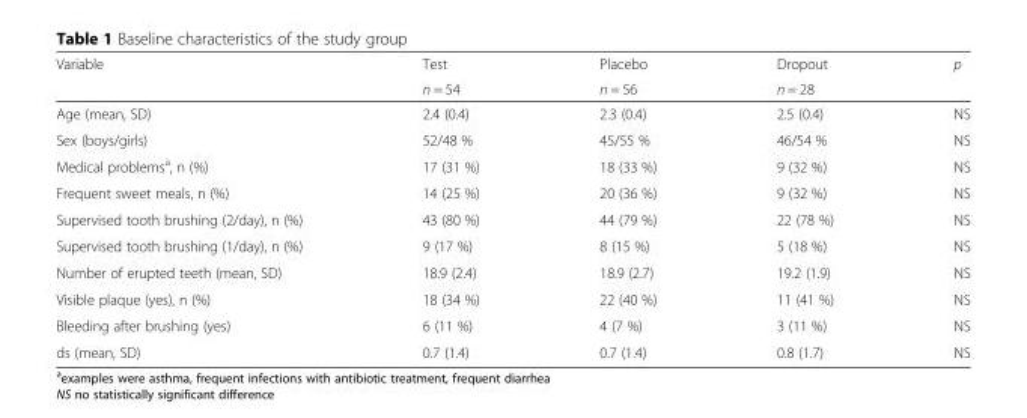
<table><thead><tr><td rowspan="2">Variable</td><td rowspan="2">Test n = 54</td><td rowspan="2">Placebo n = 56</td><td rowspan="2">Dropout n = 28</td><td rowspan="2">p</td></tr><tr></tr></thead><tbody><tr><td>Age (mean, SD)</td><td>2.4 (0.4)</td><td>2.3 (0.4)</td><td>2.5 (0.4)</td><td>NS</td></tr><tr><td>Sex (boys/girls)</td><td>52/48 %</td><td>45/55 %</td><td>46/54 %</td><td>NS</td></tr><tr><td>Medical problems<sup>a</sup>, n (%)</td><td>17 (31 %)</td><td>18 (33 %)</td><td>9 (32 %)</td><td>NS</td></tr><tr><td>Frequent sweet meals, n (%)</td><td>14 (25 %)</td><td>20 (36 %)</td><td>9 (32 %)</td><td>NS</td></tr><tr><td>Supervised tooth brushing (2/day), n (%)</td><td>43 (80 %)</td><td>44 (79 %)</td><td>22 (78 %)</td><td>NS</td></tr><tr><td>Supervised tooth brushing (1/day), n (%)</td><td>9 (17 %)</td><td>8 (15 %)</td><td>5 (18 %)</td><td>NS</td></tr><tr><td>Number of erupted teeth (mean, SD)</td><td>18.9 (2.4)</td><td>18.9 (2.7)</td><td>19.2 (1.9)</td><td>NS</td></tr><tr><td>Visible plaque (yes), n (%)</td><td>18 (34 %)</td><td>22 (40 %)</td><td>11 (41 %)</td><td>NS</td></tr><tr><td>Bleeding after brushing (yes)</td><td>6 (11 %)</td><td>4 (7 %)</td><td>3 (11 %)</td><td>NS</td></tr><tr><td>ds (mean, SD)</td><td>0.7 (1.4)</td><td>0.7 (1.4)</td><td>0.8 (1.7)</td><td>NS</td></tr></tbody></table>